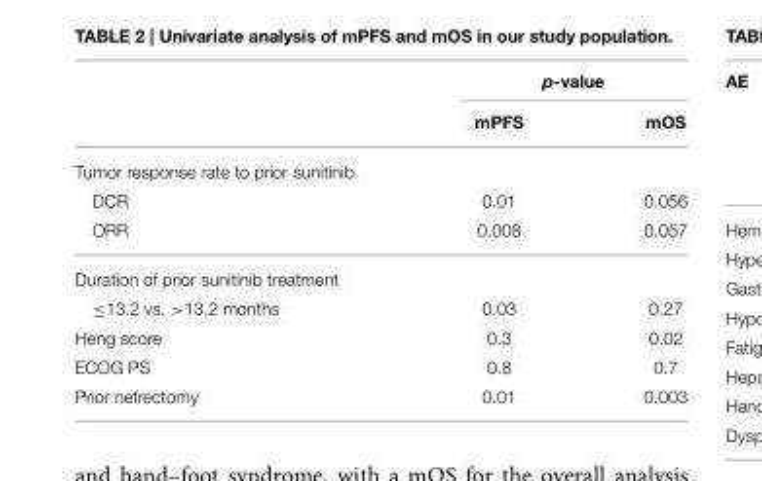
<table><thead><tr><td rowspan="2"></td><td colspan="2">p-value</td></tr><tr><td>mPFS</td><td>mOS</td></tr></thead><tbody><tr><td colspan="3">Tumor response rate to prior sunitinib</td></tr><tr><td>DCR</td><td>0.01</td><td>0.056</td></tr><tr><td>ORR</td><td>0.008</td><td>0.057</td></tr><tr><td colspan="3">Duration of prior sunitinib treatment</td></tr><tr><td>≤13.2 vs. &gt;13.2 months</td><td>0.03</td><td>0.27</td></tr><tr><td>Heng score</td><td>0.3</td><td>0.02</td></tr><tr><td>ECOG PS</td><td>0.8</td><td>0.7</td></tr><tr><td>Prior nefrectomy</td><td>0.01</td><td>0.003</td></tr></tbody></table>